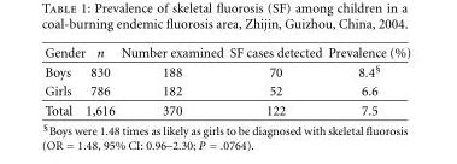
<table><thead><tr><td>Gender</td><td>n</td><td>Number examined</td><td>SF cases detected</td><td>Prevalence (%)</td></tr></thead><tbody><tr><td>Boys</td><td>830</td><td>188</td><td>70</td><td>8.4<sup>§</sup></td></tr><tr><td>Girls</td><td>786</td><td>182</td><td>52</td><td>6.6</td></tr><tr><td>Total</td><td>1,616</td><td>370</td><td>122</td><td>7.5</td></tr></tbody></table>